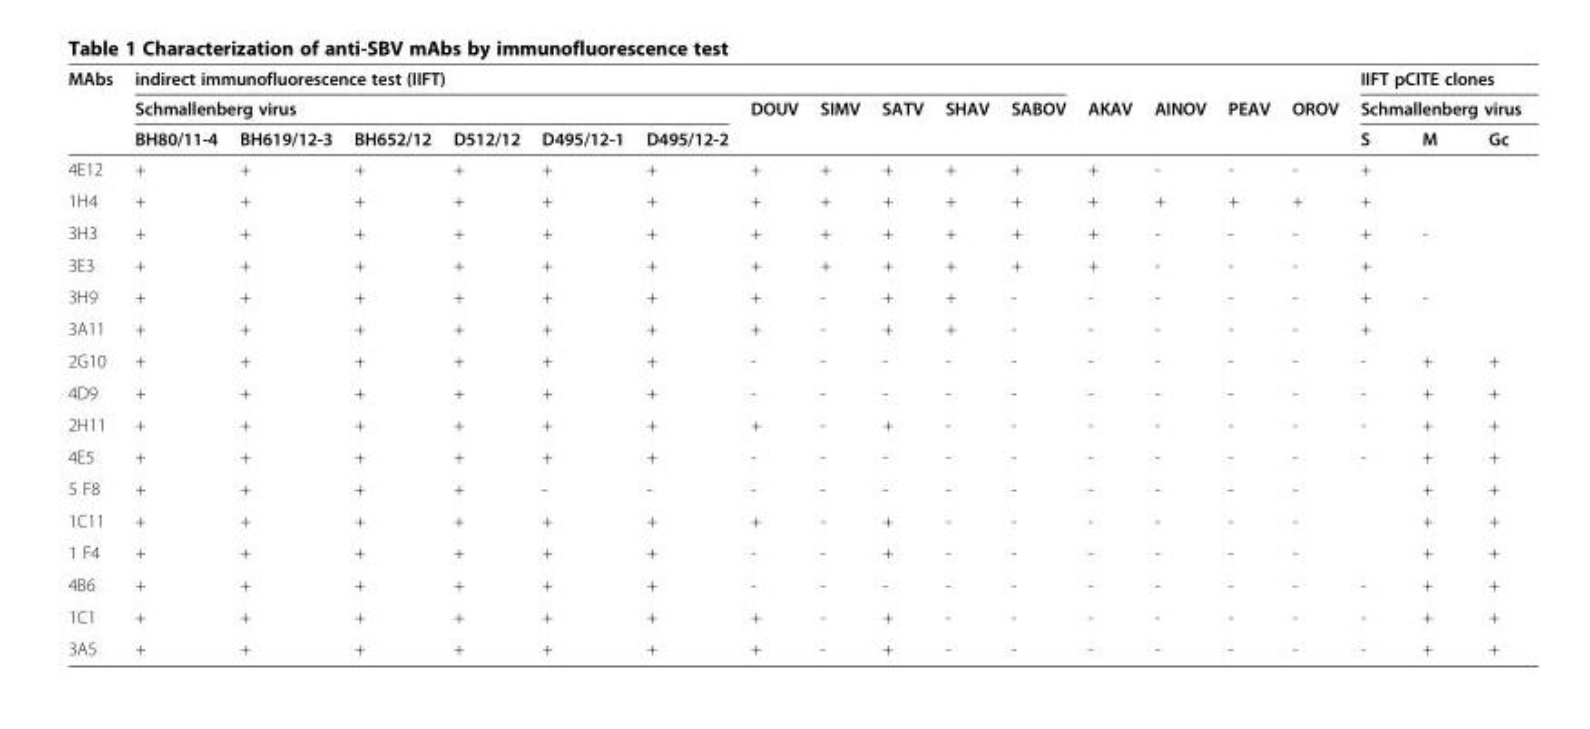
<table><thead><tr><td rowspan="3">MAbs</td><td colspan="11">indirect immunofluorescence test (IIFT)</td><td rowspan="3">AKAV</td><td rowspan="3">AINOV</td><td rowspan="3">PEAV</td><td rowspan="3">OROV</td><td rowspan="2" colspan="3">IIFT pCITE clones Schmallenberg virus</td></tr><tr><td colspan="6">Schmallenberg virus</td><td rowspan="2">DOUV</td><td rowspan="2">SIMV</td><td rowspan="2">SATV</td><td rowspan="2">SHAV</td><td rowspan="2">SABOV</td></tr><tr><td>BH80/11-4</td><td>BH619/12-3</td><td>BH652/12</td><td>D512/12</td><td>D495/12-1</td><td>D495/12-2</td><td>S</td><td>M</td><td>Gc</td></tr></thead><tbody><tr><td>4E12</td><td>+</td><td>+</td><td>+</td><td>+</td><td>+</td><td>+</td><td>+</td><td>+</td><td>+</td><td>+</td><td>+</td><td>+</td><td>-</td><td>-</td><td>-</td><td>+</td><td></td><td></td></tr><tr><td>1H4</td><td>+</td><td>+</td><td>+</td><td>+</td><td>+</td><td>+</td><td>+</td><td>+</td><td>+</td><td>+</td><td>+</td><td>+</td><td>+</td><td>+</td><td>+</td><td>+</td><td></td><td></td></tr><tr><td>3H3</td><td>+</td><td>+</td><td>+</td><td>+</td><td>+</td><td>+</td><td>+</td><td>+</td><td>+</td><td>+</td><td>+</td><td>+</td><td>-</td><td>-</td><td>-</td><td>+</td><td>-</td><td></td></tr><tr><td>3E3</td><td>+</td><td>+</td><td>+</td><td>+</td><td>+</td><td>+</td><td>+</td><td>+</td><td>+</td><td>+</td><td>+</td><td>+</td><td>-</td><td>-</td><td>-</td><td>+</td><td></td><td></td></tr><tr><td>3H9</td><td>+</td><td>+</td><td>+</td><td>+</td><td>+</td><td>+</td><td>+</td><td>-</td><td>+</td><td>+</td><td>-</td><td>-</td><td>-</td><td>-</td><td>-</td><td>+</td><td>-</td><td></td></tr><tr><td>3A11</td><td>+</td><td>+</td><td>+</td><td>+</td><td>+</td><td>+</td><td>+</td><td>-</td><td>+</td><td>+</td><td>-</td><td>-</td><td>-</td><td>-</td><td>-</td><td>+</td><td></td><td></td></tr><tr><td>2G10</td><td>+</td><td>+</td><td>+</td><td>+</td><td>+</td><td>+</td><td>-</td><td>-</td><td>-</td><td>-</td><td>-</td><td>-</td><td>-</td><td>-</td><td>-</td><td>-</td><td>+</td><td>+</td></tr><tr><td>4D9</td><td>+</td><td>+</td><td>+</td><td>+</td><td>+</td><td>+</td><td>-</td><td>-</td><td>-</td><td>-</td><td>-</td><td>-</td><td>-</td><td>-</td><td>-</td><td>-</td><td>+</td><td>+</td></tr><tr><td>2H11</td><td>+</td><td>+</td><td>+</td><td>+</td><td>+</td><td>+</td><td>+</td><td>-</td><td>+</td><td>-</td><td>-</td><td>-</td><td>-</td><td>-</td><td>-</td><td>-</td><td>+</td><td>+</td></tr><tr><td>4E5</td><td>+</td><td>+</td><td>+</td><td>+</td><td>+</td><td>+</td><td>-</td><td>-</td><td>-</td><td>-</td><td>-</td><td>-</td><td>-</td><td>-</td><td>-</td><td>-</td><td>+</td><td>+</td></tr><tr><td>5 F8</td><td>+</td><td>+</td><td>+</td><td>+</td><td>-</td><td>-</td><td>-</td><td>-</td><td>-</td><td>-</td><td>-</td><td>-</td><td>-</td><td>-</td><td>-</td><td></td><td>+</td><td>+</td></tr><tr><td>1C11</td><td>+</td><td>+</td><td>+</td><td>+</td><td>+</td><td>+</td><td>+</td><td>-</td><td>+</td><td>-</td><td>-</td><td>-</td><td>-</td><td>-</td><td>-</td><td></td><td>+</td><td>+</td></tr><tr><td>1 F4</td><td>+</td><td>+</td><td>+</td><td>+</td><td>+</td><td>+</td><td>-</td><td>-</td><td>+</td><td>-</td><td>-</td><td>-</td><td>-</td><td>-</td><td>-</td><td></td><td>+</td><td>+</td></tr><tr><td>4B6</td><td>+</td><td>+</td><td>+</td><td>+</td><td>+</td><td>+</td><td>-</td><td>-</td><td>-</td><td>-</td><td>-</td><td>-</td><td>-</td><td>-</td><td>-</td><td>-</td><td>+</td><td>+</td></tr><tr><td>1C1</td><td>+</td><td>+</td><td>+</td><td>+</td><td>+</td><td>+</td><td>+</td><td>-</td><td>+</td><td>-</td><td>-</td><td>-</td><td>-</td><td>-</td><td>-</td><td>-</td><td>+</td><td>+</td></tr><tr><td>3A5</td><td>+</td><td>+</td><td>+</td><td>+</td><td>+</td><td>+</td><td>+</td><td>-</td><td>+</td><td>-</td><td>-</td><td>-</td><td>-</td><td>-</td><td>-</td><td>-</td><td>+</td><td>+</td></tr></tbody></table>